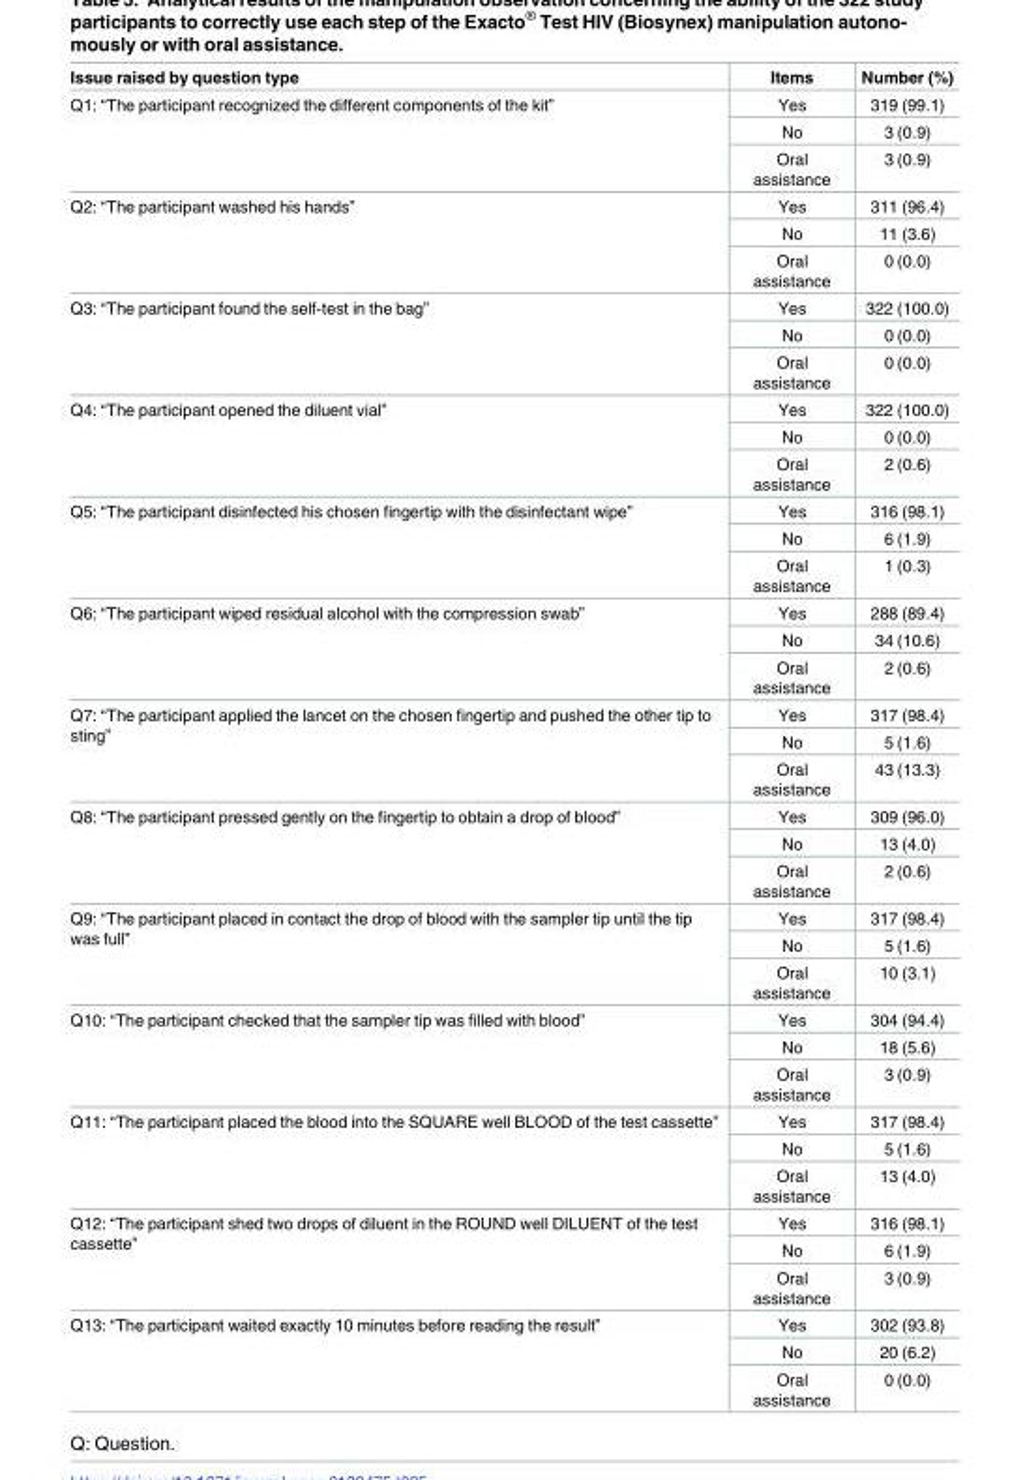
<table><thead><tr><td>Issue raised by question type</td><td>Items</td><td>Number (%)</td></tr></thead><tbody><tr><td rowspan="3">Q1: “The participant recognized the different components of the kit”</td><td>Yes</td><td>319 (99.1)</td></tr><tr><td>No</td><td>3 (0.9)</td></tr><tr><td>Oral assistance</td><td>3 (0.9)</td></tr><tr><td rowspan="3">Q2: “The participant washed his hands”</td><td>Yes</td><td>311 (96.4)</td></tr><tr><td>No</td><td>11 (3.6)</td></tr><tr><td>Oral assistance</td><td>0 (0.0)</td></tr><tr><td rowspan="3">Q3: “The participant found the self-test in the bag”</td><td>Yes</td><td>322 (100.0)</td></tr><tr><td>No</td><td>0 (0.0)</td></tr><tr><td>Oral assistance</td><td>0 (0.0)</td></tr><tr><td rowspan="3">Q4: “The participant opened the diluent vial”</td><td>Yes</td><td>322 (100.0)</td></tr><tr><td>No</td><td>0 (0.0)</td></tr><tr><td>Oral assistance</td><td>2 (0.6)</td></tr><tr><td rowspan="3">Q5: “The participant disinfected his chosen fingertip with the disinfectant wipe”</td><td>Yes</td><td>316 (98.1)</td></tr><tr><td>No</td><td>6 (1.9)</td></tr><tr><td>Oral assistance</td><td>1 (0.3)</td></tr><tr><td rowspan="3">Q6: “The participant wiped residual alcohol with the compression swab”</td><td>Yes</td><td>288 (89.4)</td></tr><tr><td>No</td><td>34 (10.6)</td></tr><tr><td>Oral assistance</td><td>2 (0.6)</td></tr><tr><td rowspan="3">Q7: “The participant applied the lancet on the chosen fingertip and pushed the other tip to sting”</td><td>Yes</td><td>317 (98.4)</td></tr><tr><td>No</td><td>5 (1.6)</td></tr><tr><td>Oral assistance</td><td>43 (13.3)</td></tr><tr><td rowspan="3">Q8: “The participant pressed gently on the fingertip to obtain a drop of blood”</td><td>Yes</td><td>309 (96.0)</td></tr><tr><td>No</td><td>13 (4.0)</td></tr><tr><td>Oral assistance</td><td>2 (0.6)</td></tr><tr><td rowspan="3">Q9: “The participant placed in contact the drop of blood with the sampler tip until the tip was full”</td><td>Yes</td><td>317 (98.4)</td></tr><tr><td>No</td><td>5 (1.6)</td></tr><tr><td>Oral assistance</td><td>10 (3.1)</td></tr><tr><td rowspan="3">Q10: “The participant checked that the sampler tip was filled with blood”</td><td>Yes</td><td>304 (94.4)</td></tr><tr><td>No</td><td>18 (5.6)</td></tr><tr><td>Oral assistance</td><td>3 (0.9)</td></tr><tr><td rowspan="3">Q11: “The participant placed the blood into the SQUARE well BLOOD of the test cassette”</td><td>Yes</td><td>317 (98.4)</td></tr><tr><td>No</td><td>5 (1.6)</td></tr><tr><td>Oral assistance</td><td>13 (4.0)</td></tr><tr><td rowspan="3">Q12: “The participant shed two drops of diluent in the ROUND well DILUENT of the test cassette”</td><td>Yes</td><td>316 (98.1)</td></tr><tr><td>No</td><td>6 (1.9)</td></tr><tr><td>Oral assistance</td><td>3 (0.9)</td></tr><tr><td rowspan="3">Q13: “The participant waited exactly 10 minutes before reading the result”</td><td>Yes</td><td>302 (93.8)</td></tr><tr><td>No</td><td>20 (6.2)</td></tr><tr><td>Oral assistance</td><td>0 (0.0)</td></tr></tbody></table>